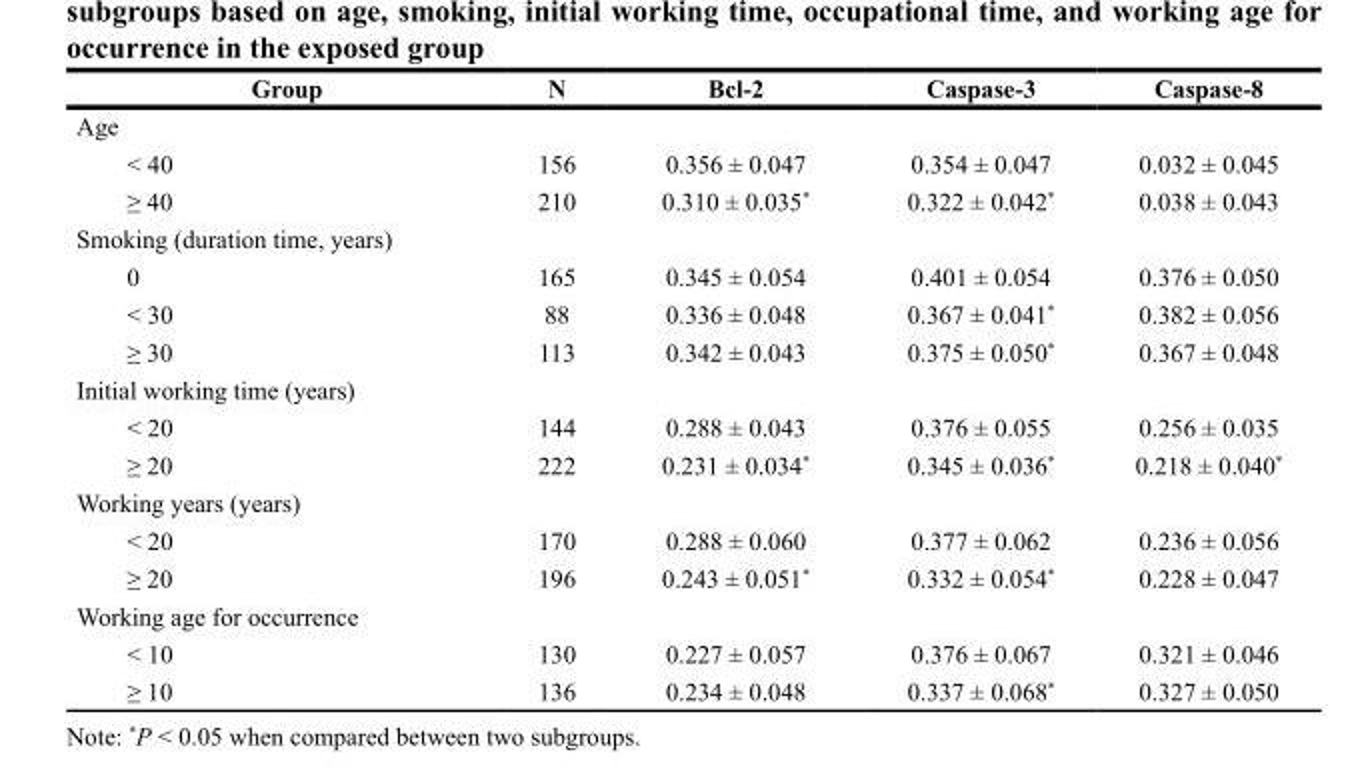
<table><thead><tr><td>Group</td><td>N</td><td>Bcl-2</td><td>Caspase-3</td><td>Caspase-8</td></tr></thead><tbody><tr><td colspan="5">Age</td></tr><tr><td>&lt; 40</td><td>156</td><td>0.356 ± 0.047</td><td>0.354 ± 0.047</td><td>0.032 ± 0.045</td></tr><tr><td>≥ 40</td><td>210</td><td>0.310 ± 0.035*</td><td>0.322 ± 0.042*</td><td>0.038 ± 0.043</td></tr><tr><td colspan="5">Smoking (duration time, years)</td></tr><tr><td>0</td><td>165</td><td>0.345 ± 0.054</td><td>0.401 ± 0.054</td><td>0.376 ± 0.050</td></tr><tr><td>&lt; 30</td><td>88</td><td>0.336 ± 0.048</td><td>0.367 ± 0.041*</td><td>0.382 ± 0.056</td></tr><tr><td>≥ 30</td><td>113</td><td>0.342 ± 0.043</td><td>0.375 ± 0.050*</td><td>0.367 ± 0.048</td></tr><tr><td colspan="5">Initial working time (years)</td></tr><tr><td>&lt; 20</td><td>144</td><td>0.288 ± 0.043</td><td>0.376 ± 0.055</td><td>0.256 ± 0.035</td></tr><tr><td>≥ 20</td><td>222</td><td>0.231 ± 0.034*</td><td>0.345 ± 0.036*</td><td>0.218 ± 0.040*</td></tr><tr><td colspan="5">Working years (years)</td></tr><tr><td>&lt; 20</td><td>170</td><td>0.288 ± 0.060</td><td>0.377 ± 0.062</td><td>0.236 ± 0.056</td></tr><tr><td>≥ 20</td><td>196</td><td>0.243 ± 0.051*</td><td>0.332 ± 0.054*</td><td>0.228 ± 0.047</td></tr><tr><td colspan="5">Working age for occurrence</td></tr><tr><td>&lt; 10</td><td>130</td><td>0.227 ± 0.057</td><td>0.376 ± 0.067</td><td>0.321 ± 0.046</td></tr><tr><td>≥ 10</td><td>136</td><td>0.234 ± 0.048</td><td>0.337 ± 0.068*</td><td>0.327 ± 0.050</td></tr></tbody></table>